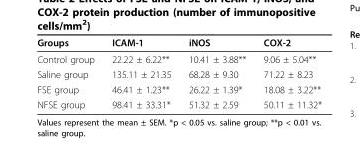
<table><thead><tr><td>Groups</td><td>ICAM-1</td><td>iNOS</td><td>COX-2</td></tr></thead><tbody><tr><td>Control group</td><td>22.22 ± 6.22**</td><td>10.41 ± 3.88**</td><td>9.06 ± 5.04**</td></tr><tr><td>Saline group</td><td>135.11 ± 21.35</td><td>68.28 ± 9.30</td><td>71.22 ± 8.23</td></tr><tr><td>FSE group</td><td>46.41 ± 1.23**</td><td>26.22 ± 1.39*</td><td>18.08 ± 3.22**</td></tr><tr><td>NFSE group</td><td>98.41 ± 33.31*</td><td>51.32 ± 2.59</td><td>50.11 ± 11.32*</td></tr></tbody></table>